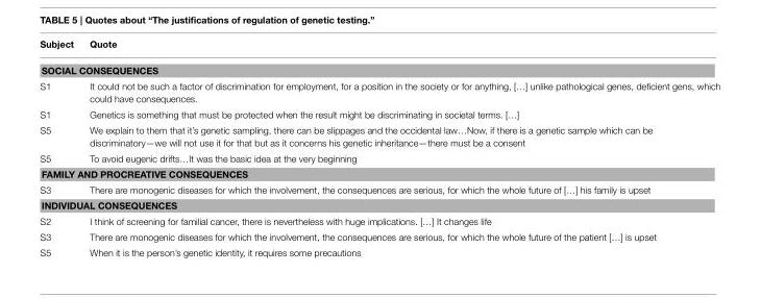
<table><thead><tr><td>Subject</td><td>Quote</td></tr></thead><tbody><tr><td colspan="2">SOCIAL CONSEQUENCES</td></tr><tr><td>S1</td><td>It could not be such a factor of discrimination for employment, for a position in the society or for anything, […] unlike pathological genes, deficient gens, which could have consequences.</td></tr><tr><td>S1</td><td>Genetics is something that must be protected when the result might be discriminating in societal terms. […]</td></tr><tr><td>S5</td><td>We explain to them that it’s genetic sampling, there can be slippages and the occidental law…Now, if there is a genetic sample which can be discriminatory—we will not use it for that but as it concerns his genetic inheritance—there must be a consent</td></tr><tr><td>S5</td><td>To avoid eugenic drifts…It was the basic idea at the very beginning</td></tr><tr><td colspan="2">FAMILY AND PROCREATIVE CONSEQUENCES</td></tr><tr><td>S3</td><td>There are monogenic diseases for which the involvement, the consequences are serious, for which the whole future of […] his family is upset</td></tr><tr><td colspan="2">INDIVIDUAL CONSEQUENCES</td></tr><tr><td>S2</td><td>I think of screening for familial cancer, there is nevertheless with huge implications. […] It changes life</td></tr><tr><td>S3</td><td>There are monogenic diseases for which the involvement, the consequences are serious, for which the whole future of the patient […] is upset</td></tr><tr><td>S5</td><td>When it is the person’s genetic identity, it requires some precautions</td></tr></tbody></table>